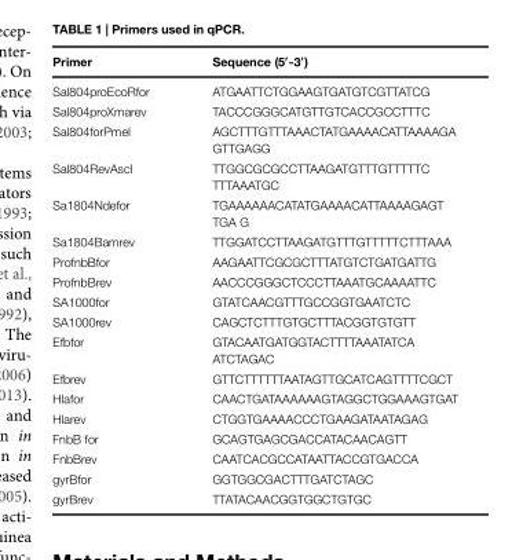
<table><thead><tr><td>Primer</td><td>Sequence (5′-3′)</td></tr></thead><tbody><tr><td>Sal804proEcoRfor</td><td>ATGAATTCTGGAAGTGATGTCGTTATCG</td></tr><tr><td>Sal804proXmarev</td><td>TACCCGGGCATGTTGTCACCGCCTTTC</td></tr><tr><td>Sal804forPmeI</td><td>AGCTTTGTTTAAACTATGAAAACATTAAAAGA GTTGAGG</td></tr><tr><td>Sal804RevAscI</td><td>TTGGCGCGCCTTAAGATGTTTGTTTTTC TTTAAATGC</td></tr><tr><td>Sa1804Ndefor</td><td>TGAAAAAACATATGAAAACATTAAAAGAGT TGA G</td></tr><tr><td>Sa1804Bamrev</td><td>TTGGATCCTTAAGATGTTTGTTTTTCTTTAAA</td></tr><tr><td>ProfnbBfor</td><td>AAGAATTCGCGCTTTATGTCTGATGATTG</td></tr><tr><td>ProfnbBrev</td><td>AACCCGGGCTCCCTTAAATGCAAAATTC</td></tr><tr><td>SA1000for</td><td>GTATCAACGTTTGCCGGTGAATCTC</td></tr><tr><td>SA1000rev</td><td>CAGCTCTTTGTGCTTTACGGTGTGTT</td></tr><tr><td>Efbfor</td><td>GTACAATGATGGTACTTTTAAATATCA ATCTAGAC</td></tr><tr><td>Efbrev</td><td>GTTCTTTTTTAATAGTTGCATCAGTTTTCGCT</td></tr><tr><td>Hlafor</td><td>CAACTGATAAAAAAGTAGGCTGGAAAGTGAT</td></tr><tr><td>Hlarev</td><td>CTGGTGAAAACCCTGAAGATAATAGAG</td></tr><tr><td>FnbB for</td><td>GCAGTGAGCGACCATACAACAGTT</td></tr><tr><td>FnbBrev</td><td>CAATCACGCCATAATTACCGTGACCA</td></tr><tr><td>gyrBfor</td><td>GGTGGCGACTTTGATCTAGC</td></tr><tr><td>gyrBrev</td><td>TTATACAACGGTGGCTGTGC</td></tr></tbody></table>